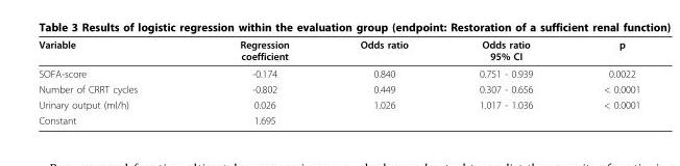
<table><thead><tr><td>Variable</td><td>Regression coefficient</td><td>Odds ratio</td><td>Odds ratio 95% CI</td><td>p</td></tr></thead><tbody><tr><td>SOFA-score</td><td>-0.174</td><td>0.840</td><td>0.751 - 0.939</td><td>0.0022</td></tr><tr><td>Number of CRRT cycles</td><td>-0.802</td><td>0.449</td><td>0.307 - 0.656</td><td>&lt; 0.0001</td></tr><tr><td>Urinary output (ml/h)</td><td>0.026</td><td>1.026</td><td>1.017 - 1.036</td><td>&lt; 0.0001</td></tr><tr><td>Constant</td><td>1.695</td><td></td><td></td><td></td></tr></tbody></table>